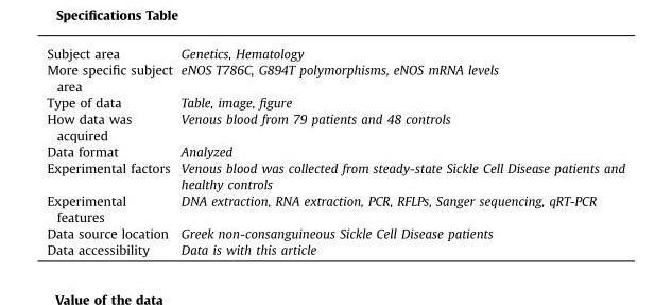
<table><tbody><tr><td>Subject area</td><td>Genetics, Hematology</td></tr><tr><td>More specific subject area</td><td>eNOS T786C, G894T polymorphisms, eNOS mRNA levels</td></tr><tr><td>Type of data</td><td>Table, image, figure</td></tr><tr><td>How data was acquired</td><td>Venous blood from 79 patients and 48 controls</td></tr><tr><td>Data format</td><td>Analyzed</td></tr><tr><td>Experimental factors</td><td>Venous blood was collected from steady-state Sickle Cell Disease patients and healthy controls</td></tr><tr><td>Experimental features</td><td>DNA extraction, RNA extraction, PCR, RFLPs, Sanger sequencing, qRT-PCR</td></tr><tr><td>Data source location</td><td>Greek non-consanguineous Sickle Cell Disease patients</td></tr><tr><td>Data accessibility</td><td>Data is with this article</td></tr></tbody></table>